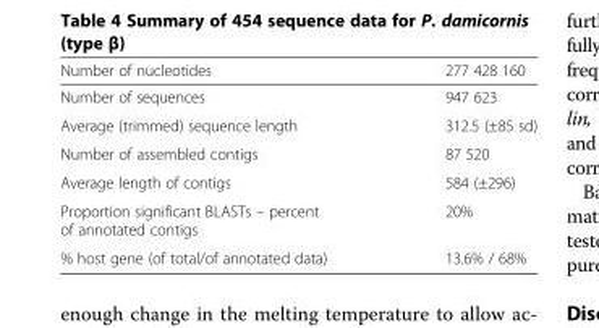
<table><thead><tr><td>Number of nucleotides</td><td>277 428 160</td></tr></thead><tbody><tr><td>Number of sequences</td><td>947 623</td></tr><tr><td>Average (trimmed) sequence length</td><td>312.5 (±85 sd)</td></tr><tr><td>Number of assembled contigs</td><td>87 520</td></tr><tr><td>Average length of contigs</td><td>584 (±296)</td></tr><tr><td>Proportion significant BLASTs – percent of annotated contigs</td><td>20%</td></tr><tr><td>% host gene (of total/of annotated data)</td><td>13.6% / 68%</td></tr></tbody></table>